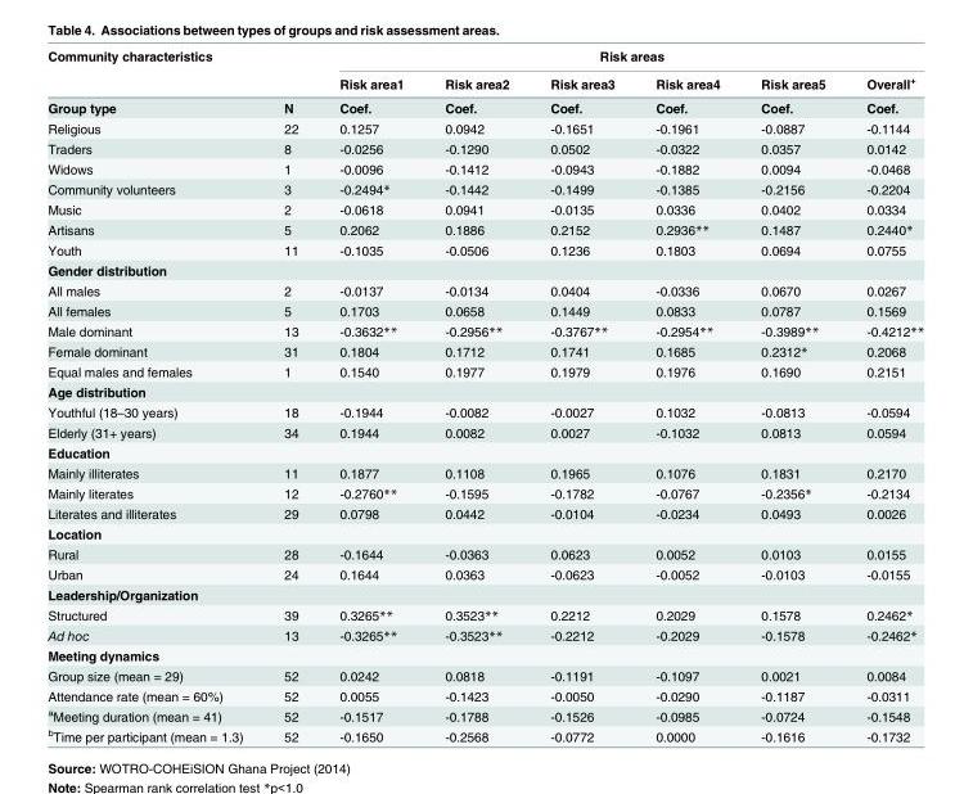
<table><thead><tr><td rowspan="2">Community characteristics</td><td rowspan="2"></td><td colspan="6">Risk areas</td></tr><tr><td>Risk area1</td><td>Risk area2</td><td>Risk area3</td><td>Risk area4</td><td>Risk area5</td><td>Overall<sup>+</sup></td></tr></thead><tbody><tr><td>Group type</td><td>N</td><td>Coef.</td><td>Coef.</td><td>Coef.</td><td>Coef.</td><td>Coef.</td><td>Coef.</td></tr><tr><td>Religious</td><td>22</td><td>0.1257</td><td>0.0942</td><td>-0.1651</td><td>-0.1961</td><td>-0.0887</td><td>-0.1144</td></tr><tr><td>Traders</td><td>8</td><td>-0.0256</td><td>-0.1290</td><td>0.0502</td><td>-0.0322</td><td>0.0357</td><td>0.0142</td></tr><tr><td>Widows</td><td>1</td><td>-0.0096</td><td>-0.1412</td><td>-0.0943</td><td>-0.1882</td><td>0.0094</td><td>-0.0468</td></tr><tr><td>Community volunteers</td><td>3</td><td>-0.2494*</td><td>-0.1442</td><td>-0.1499</td><td>-0.1385</td><td>-0.2156</td><td>-0.2204</td></tr><tr><td>Music</td><td>2</td><td>-0.0618</td><td>0.0941</td><td>-0.0135</td><td>0.0336</td><td>0.0402</td><td>0.0334</td></tr><tr><td>Artisans</td><td>5</td><td>0.2062</td><td>0.1886</td><td>0.2152</td><td>0.2936**</td><td>0.1487</td><td>0.2440*</td></tr><tr><td>Youth</td><td>11</td><td>-0.1035</td><td>-0.0506</td><td>0.1236</td><td>0.1803</td><td>0.0694</td><td>0.0755</td></tr><tr><td colspan="8">Gender distribution</td></tr><tr><td>All males</td><td>2</td><td>-0.0137</td><td>-0.0134</td><td>0.0404</td><td>-0.0336</td><td>0.0670</td><td>0.0267</td></tr><tr><td>All females</td><td>5</td><td>0.1703</td><td>0.0658</td><td>0.1449</td><td>0.0833</td><td>0.0787</td><td>0.1569</td></tr><tr><td>Male dominant</td><td>13</td><td>-0.3632**</td><td>-0.2956**</td><td>-0.3767**</td><td>-0.2954**</td><td>-0.3989**</td><td>-0.4212**</td></tr><tr><td>Female dominant</td><td>31</td><td>0.1804</td><td>0.1712</td><td>0.1741</td><td>0.1685</td><td>0.2312*</td><td>0.2068</td></tr><tr><td>Equal males and females</td><td>1</td><td>0.1540</td><td>0.1977</td><td>0.1979</td><td>0.1976</td><td>0.1690</td><td>0.2151</td></tr><tr><td colspan="8">Age distribution</td></tr><tr><td>Youthful (18–30 years)</td><td>18</td><td>-0.1944</td><td>-0.0082</td><td>-0.0027</td><td>0.1032</td><td>-0.0813</td><td>-0.0594</td></tr><tr><td>Elderly (31+ years)</td><td>34</td><td>0.1944</td><td>0.0082</td><td>0.0027</td><td>-0.1032</td><td>0.0813</td><td>0.0594</td></tr><tr><td colspan="8">Education</td></tr><tr><td>Mainly illiterates</td><td>11</td><td>0.1877</td><td>0.1108</td><td>0.1965</td><td>0.1076</td><td>0.1831</td><td>0.2170</td></tr><tr><td>Mainly literates</td><td>12</td><td>-0.2760**</td><td>-0.1595</td><td>-0.1782</td><td>-0.0767</td><td>-0.2356*</td><td>-0.2134</td></tr><tr><td>Literates and illiterates</td><td>29</td><td>0.0798</td><td>0.0442</td><td>-0.0104</td><td>-0.0234</td><td>0.0493</td><td>0.0026</td></tr><tr><td colspan="8">Location</td></tr><tr><td>Rural</td><td>28</td><td>-0.1644</td><td>-0.0363</td><td>0.0623</td><td>0.0052</td><td>0.0103</td><td>0.0155</td></tr><tr><td>Urban</td><td>24</td><td>0.1644</td><td>0.0363</td><td>-0.0623</td><td>-0.0052</td><td>-0.0103</td><td>-0.0155</td></tr><tr><td colspan="8">Leadership/Organization</td></tr><tr><td>Structured</td><td>39</td><td>0.3265**</td><td>0.3523**</td><td>0.2212</td><td>0.2029</td><td>0.1578</td><td>0.2462*</td></tr><tr><td>Ad hoc</td><td>13</td><td>-0.3265**</td><td>-0.3523**</td><td>-0.2212</td><td>-0.2029</td><td>-0.1578</td><td>-0.2462*</td></tr><tr><td colspan="8">Meeting dynamics</td></tr><tr><td>Group size (mean = 29)</td><td>52</td><td>0.0242</td><td>0.0818</td><td>-0.1191</td><td>-0.1097</td><td>0.0021</td><td>0.0084</td></tr><tr><td>Attendance rate (mean = 60%)</td><td>52</td><td>0.0055</td><td>-0.1423</td><td>-0.0050</td><td>-0.0290</td><td>-0.1187</td><td>-0.0311</td></tr><tr><td><sup>a</sup>Meeting duration (mean = 41)</td><td>52</td><td>-0.1517</td><td>-0.1788</td><td>-0.1526</td><td>-0.0985</td><td>-0.0724</td><td>-0.1548</td></tr><tr><td><sup>b</sup>Time per participant (mean = 1.3)</td><td>52</td><td>-0.1650</td><td>-0.2568</td><td>-0.0772</td><td>0.0000</td><td>-0.1616</td><td>-0.1732</td></tr></tbody></table>